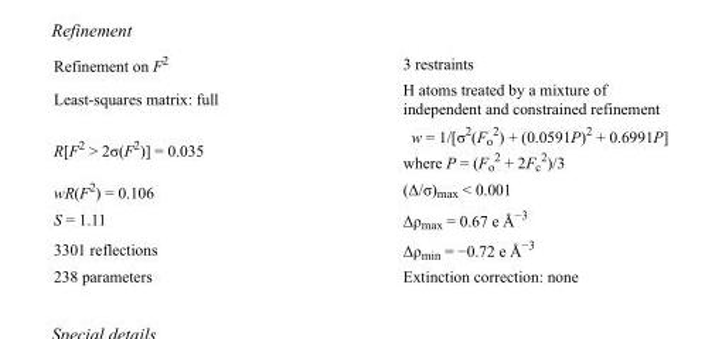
<table><tbody><tr><td>Refinement on F<sup>2</sup></td><td>3 restraints</td></tr><tr><td>Least-squares matrix: full</td><td>H atoms treated by a mixture of independent and constrained refinement</td></tr><tr><td>R[F<sup>2</sup> &gt; 2σ(F<sup>2</sup>)] = 0.035</td><td>w = 1/[σ<sup>2</sup>(F<sub>o</sub> <sup>2</sup>) + (0.0591P)<sup>2</sup> + 0.6991P] where P = (F<sub>o</sub> <sup>2</sup> + 2F<sub>c</sub> <sup>2</sup>)/3</td></tr><tr><td>wR(F<sup>2</sup>) = 0.106</td><td>(Δ/σ)<sub>max</sub> &lt; 0.001</td></tr><tr><td>S = 1.11</td><td>Δρ<sub>max</sub> = 0.67 e Å<sup>−3</sup></td></tr><tr><td>3301 reflections</td><td>Δρ<sub>min</sub> = −0.72 e Å<sup>−3</sup></td></tr><tr><td>238 parameters</td><td>Extinction correction: none</td></tr></tbody></table>